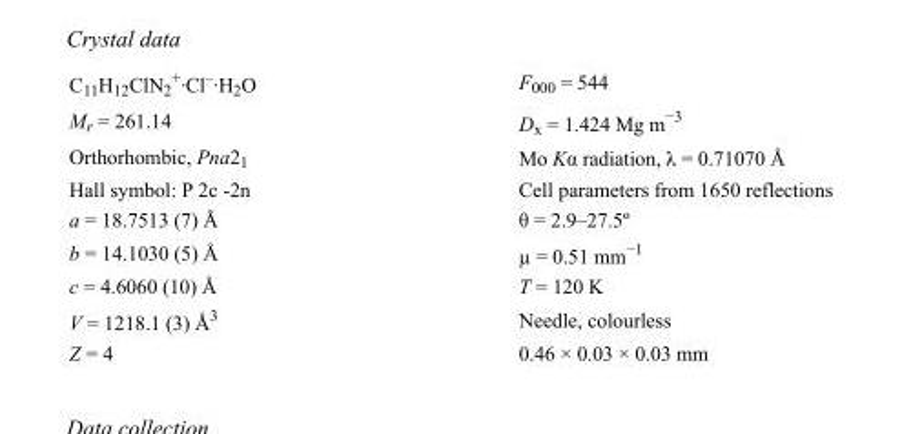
<table><tbody><tr><td>C<sub>11</sub>H<sub>12</sub>ClN<sub>2</sub> <sup>+</sup>·Cl<sup>–</sup>·H<sub>2</sub>O</td><td>F000 = 544</td></tr><tr><td>M<sub>r</sub> = 261.14</td><td>D<sub>x</sub> = 1.424 Mg m<sup>−3</sup></td></tr><tr><td>Orthorhombic, Pna2<sub>1</sub></td><td>Mo Kα radiation, λ = 0.71070 Å</td></tr><tr><td>Hall symbol: P 2c -2n</td><td>Cell parameters from 1650 reflections</td></tr><tr><td>a = 18.7513 (7) Å</td><td>θ = 2.9–27.5º</td></tr><tr><td>b = 14.1030 (5) Å</td><td>µ = 0.51 mm<sup>−1</sup></td></tr><tr><td>c = 4.6060 (10) Å</td><td>T = 120 K</td></tr><tr><td>V = 1218.1 (3) Å<sup>3</sup></td><td>Needle, colourless</td></tr><tr><td>Z = 4</td><td>0.46 × 0.03 × 0.03 mm</td></tr></tbody></table>